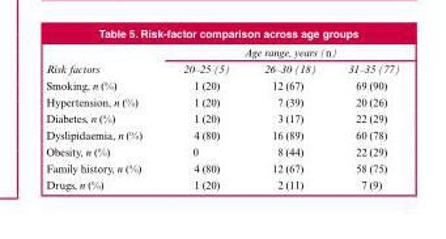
<table><thead><tr><td rowspan="2">Risk factors</td><td colspan="3">Age range, years (n)</td></tr><tr><td>20–25 (5)</td><td>26–30 (18)</td><td>31–35 (77)</td></tr></thead><tbody><tr><td>Smoking, n (%)</td><td>1 (20)</td><td>12 (67)</td><td>69 (90)</td></tr><tr><td>Hypertension, n (%)</td><td>1 (20)</td><td>7 (39)</td><td>20 (26)</td></tr><tr><td>Diabetes, n (%)</td><td>1 (20)</td><td>3 (17)</td><td>22 (29)</td></tr><tr><td>Dyslipidaemia, n (%)</td><td>4 (80)</td><td>16 (89)</td><td>60 (78)</td></tr><tr><td>Obesity, n (%)</td><td>0</td><td>8 (44)</td><td>22 (29)</td></tr><tr><td>Family history, n (%)</td><td>4 (80)</td><td>12 (67)</td><td>58 (75)</td></tr><tr><td>Drugs, n (%)</td><td>1 (20)</td><td>2 (11)</td><td>7 (9)</td></tr></tbody></table>